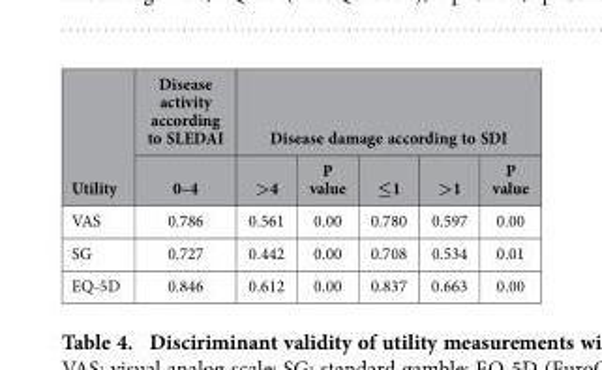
<table><thead><tr><td rowspan="2">Utility</td><td rowspan="2">Disease activity according to SLEDAI 0–4</td><td colspan="5">Disease damage according to SDI</td></tr><tr><td>&gt;4</td><td>P value</td><td>≤1</td><td>&gt;1</td><td>P value</td></tr></thead><tbody><tr><td>VAS</td><td>0.786</td><td>0.561</td><td>0.00</td><td>0.780</td><td>0.597</td><td>0.00</td></tr><tr><td>SG</td><td>0.727</td><td>0.442</td><td>0.00</td><td>0.708</td><td>0.534</td><td>0.01</td></tr><tr><td>EQ-5D</td><td>0.846</td><td>0.612</td><td>0.00</td><td>0.837</td><td>0.663</td><td>0.00</td></tr></tbody></table>